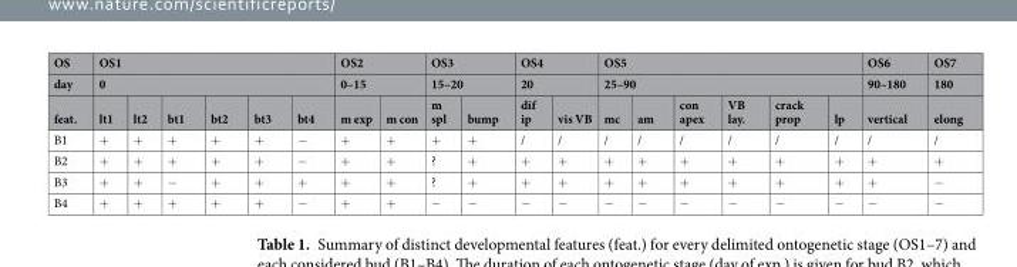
<table><thead><tr><td rowspan="3">OS day feat.</td><td rowspan="2" colspan="6">OS1 0</td><td rowspan="2" colspan="2">OS2 0–15</td><td rowspan="2" colspan="2">OS3 15–20</td><td rowspan="2" colspan="2">OS4 20</td><td rowspan="2" colspan="6">OS5 25–90</td><td rowspan="3">OS6 90–180 vertical</td><td rowspan="3">OS7 180 elong</td></tr><tr></tr><tr><td>lt1</td><td>lt2</td><td>bt1</td><td>bt2</td><td>bt3</td><td>bt4</td><td>m exp</td><td>m con</td><td>m spl</td><td>bump</td><td>dif ip</td><td>vis VB</td><td>mc</td><td>am</td><td>con apex</td><td>VB lay.</td><td>crack prop</td><td>lp</td></tr></thead><tbody><tr><td>B1</td><td>+</td><td>+</td><td>+</td><td>+</td><td>+</td><td>−</td><td>+</td><td>+</td><td>+</td><td>+</td><td>/</td><td>/</td><td>/</td><td>/</td><td>/</td><td>/</td><td>/</td><td>/</td><td>/</td><td>/</td></tr><tr><td>B2</td><td>+</td><td>+</td><td>+</td><td>+</td><td>+</td><td>−</td><td>+</td><td>+</td><td>?</td><td>+</td><td>+</td><td>+</td><td>+</td><td>+</td><td>+</td><td>+</td><td>+</td><td>+</td><td>+</td><td>+</td></tr><tr><td>B3</td><td>+</td><td>+</td><td>−</td><td>+</td><td>+</td><td>+</td><td>+</td><td>+</td><td>?</td><td>+</td><td>+</td><td>+</td><td>+</td><td>+</td><td>+</td><td>+</td><td>+</td><td>+</td><td>+</td><td>−</td></tr><tr><td>B4</td><td>+</td><td>+</td><td>+</td><td>+</td><td>+</td><td>−</td><td>+</td><td>+</td><td>−</td><td>−</td><td>−</td><td>−</td><td>−</td><td>−</td><td>−</td><td>−</td><td>−</td><td>−</td><td>−</td><td>−</td></tr></tbody></table>